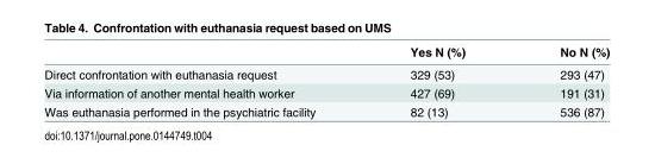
<table><thead><tr><td></td><td>Yes N (%)</td><td>No N (%)</td></tr></thead><tbody><tr><td>Direct confrontation with euthanasia request</td><td>329 (53)</td><td>293 (47)</td></tr><tr><td>Via information of another mental health worker</td><td>427 (69)</td><td>191 (31)</td></tr><tr><td>Was euthanasia performed in the psychiatric facility</td><td>82 (13)</td><td>536 (87)</td></tr></tbody></table>